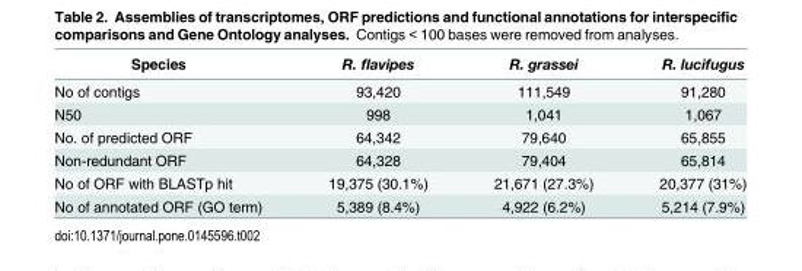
<table><thead><tr><td>Species</td><td>R. flavipes</td><td>R. grassei</td><td>R. lucifugus</td></tr></thead><tbody><tr><td>No of contigs</td><td>93,420</td><td>111,549</td><td>91,280</td></tr><tr><td>N50</td><td>998</td><td>1,041</td><td>1,067</td></tr><tr><td>No. of predicted ORF</td><td>64,342</td><td>79,640</td><td>65,855</td></tr><tr><td>Non-redundant ORF</td><td>64,328</td><td>79,404</td><td>65,814</td></tr><tr><td>No of ORF with BLASTp hit</td><td>19,375 (30.1%)</td><td>21,671 (27.3%)</td><td>20,377 (31%)</td></tr><tr><td>No of annotated ORF (GO term)</td><td>5,389 (8.4%)</td><td>4,922 (6.2%)</td><td>5,214 (7.9%)</td></tr></tbody></table>